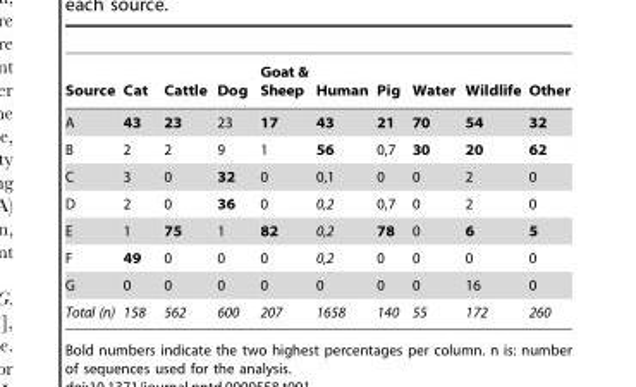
<table><thead><tr><td>Source</td><td>Cat</td><td>Cattle</td><td>Dog</td><td>Goat &amp; Sheep</td><td>Human</td><td>Pig</td><td>Water</td><td>Wildlife</td><td>Other</td></tr></thead><tbody><tr><td>A</td><td>43</td><td>23</td><td>23</td><td>17</td><td>43</td><td>21</td><td>70</td><td>54</td><td>32</td></tr><tr><td>B</td><td>2</td><td>2</td><td>9</td><td>1</td><td>56</td><td>0,7</td><td>30</td><td>20</td><td>62</td></tr><tr><td>C</td><td>3</td><td>0</td><td>32</td><td>0</td><td>0,1</td><td>0</td><td>0</td><td>2</td><td>0</td></tr><tr><td>D</td><td>2</td><td>0</td><td>36</td><td>0</td><td>0,2</td><td>0,7</td><td>0</td><td>2</td><td>0</td></tr><tr><td>E</td><td>1</td><td>75</td><td>1</td><td>82</td><td>0,2</td><td>78</td><td>0</td><td>6</td><td>5</td></tr><tr><td>F</td><td>49</td><td>0</td><td>0</td><td>0</td><td>0,2</td><td>0</td><td>0</td><td>0</td><td>0</td></tr><tr><td>G</td><td>0</td><td>0</td><td>0</td><td>0</td><td>0</td><td>0</td><td>0</td><td>16</td><td>0</td></tr><tr><td>Total (n)</td><td>158</td><td>562</td><td>600</td><td>207</td><td>1658</td><td>140</td><td>55</td><td>172</td><td>260</td></tr></tbody></table>